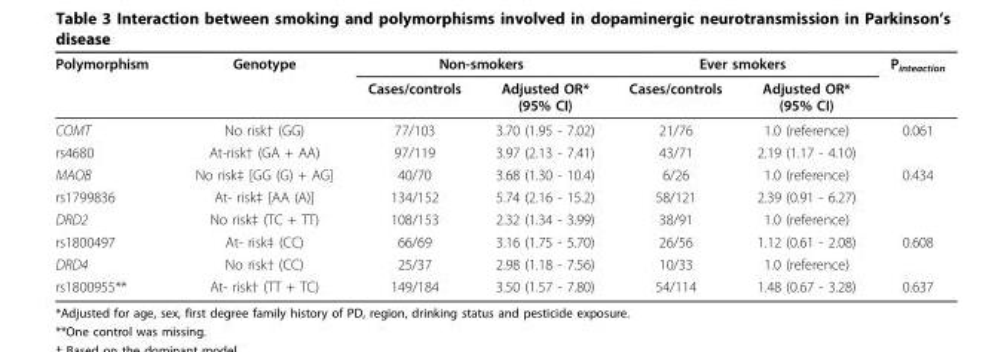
<table><thead><tr><td rowspan="2">Polymorphism</td><td rowspan="2">Genotype</td><td colspan="2">Non-smokers</td><td colspan="2">Ever smokers</td><td rowspan="2">P<sub>inteaction</sub></td></tr><tr><td>Cases/controls</td><td>Adjusted OR* (95% CI)</td><td>Cases/controls</td><td>Adjusted OR* (95% CI)</td></tr></thead><tbody><tr><td>COMT</td><td>No risk† (GG)</td><td>77/103</td><td>3.70 (1.95 - 7.02)</td><td>21/76</td><td>1.0 (reference)</td><td>0.061</td></tr><tr><td>rs4680</td><td>At-risk† (GA + AA)</td><td>97/119</td><td>3.97 (2.13 - 7.41)</td><td>43/71</td><td>2.19 (1.17 - 4.10)</td><td></td></tr><tr><td>MAOB</td><td>No risk‡ [GG (G) + AG]</td><td>40/70</td><td>3.68 (1.30 - 10.4)</td><td>6/26</td><td>1.0 (reference)</td><td>0.434</td></tr><tr><td>rs1799836</td><td>At- risk‡ [AA (A)]</td><td>134/152</td><td>5.74 (2.16 - 15.2)</td><td>58/121</td><td>2.39 (0.91 - 6.27)</td><td></td></tr><tr><td>DRD2</td><td>No risk‡ (TC + TT)</td><td>108/153</td><td>2.32 (1.34 - 3.99)</td><td>38/91</td><td>1.0 (reference)</td><td></td></tr><tr><td>rs1800497</td><td>At- risk‡ (CC)</td><td>66/69</td><td>3.16 (1.75 - 5.70)</td><td>26/56</td><td>1.12 (0.61 - 2.08)</td><td>0.608</td></tr><tr><td>DRD4</td><td>No risk† (CC)</td><td>25/37</td><td>2.98 (1.18 - 7.56)</td><td>10/33</td><td>1.0 (reference)</td><td></td></tr><tr><td>rs1800955**</td><td>At- risk† (TT + TC)</td><td>149/184</td><td>3.50 (1.57 - 7.80)</td><td>54/114</td><td>1.48 (0.67 - 3.28)</td><td>0.637</td></tr></tbody></table>